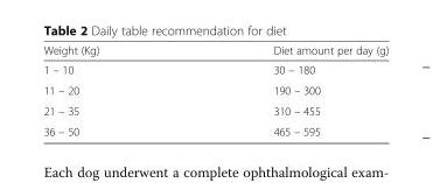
<table><thead><tr><td>Weight (Kg)</td><td>Diet amount per day (g)</td></tr></thead><tbody><tr><td>1 – 10</td><td>30 – 180</td></tr><tr><td>11 – 20</td><td>190 – 300</td></tr><tr><td>21 – 35</td><td>310 – 455</td></tr><tr><td>36 – 50</td><td>465 – 595</td></tr></tbody></table>